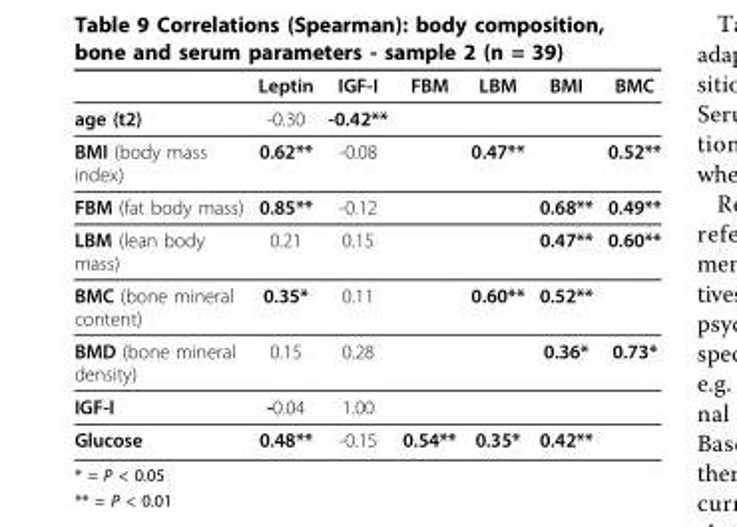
<table><thead><tr><td></td><td>Leptin</td><td>IGF-I</td><td>FBM</td><td>LBM</td><td>BMI</td><td>BMC</td></tr></thead><tbody><tr><td>age (t2)</td><td>-0.30</td><td>-0.42**</td><td></td><td></td><td></td><td></td></tr><tr><td>BMI (body mass index)</td><td>0.62**</td><td>-0.08</td><td></td><td>0.47**</td><td></td><td>0.52**</td></tr><tr><td>FBM (fat body mass)</td><td>0.85**</td><td>-0.12</td><td></td><td></td><td>0.68**</td><td>0.49**</td></tr><tr><td>LBM (lean body mass)</td><td>0.21</td><td>0.15</td><td></td><td></td><td>0.47**</td><td>0.60**</td></tr><tr><td>BMC (bone mineral content)</td><td>0.35*</td><td>0.11</td><td></td><td>0.60**</td><td>0.52**</td><td></td></tr><tr><td>BMD (bone mineral density)</td><td>0.15</td><td>0.28</td><td></td><td></td><td>0.36*</td><td>0.73*</td></tr><tr><td>IGF-I</td><td>-0.04</td><td>1.00</td><td></td><td></td><td></td><td></td></tr><tr><td>Glucose</td><td>0.48**</td><td>-0.15</td><td>0.54**</td><td>0.35*</td><td>0.42**</td><td></td></tr></tbody></table>